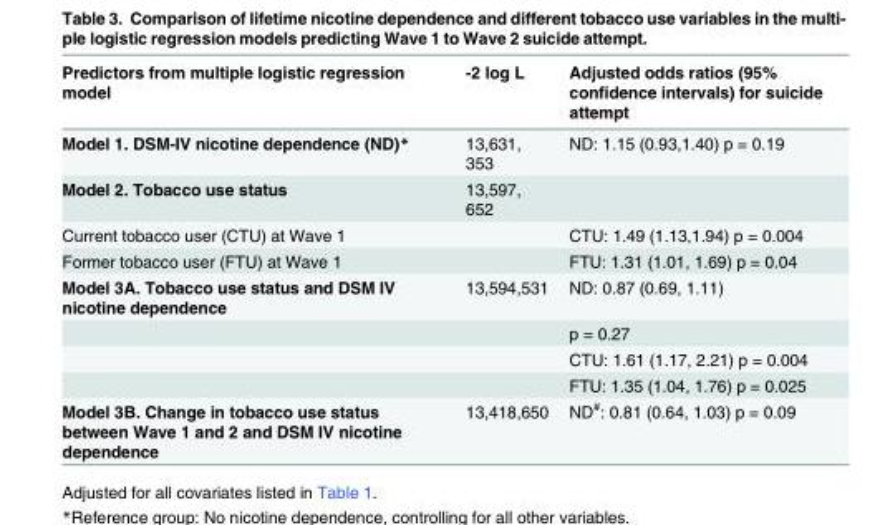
<table><thead><tr><td>Predictors from multiple logistic regression model</td><td>-2 log L</td><td>Adjusted odds ratios (95% confidence intervals) for suicide attempt</td></tr></thead><tbody><tr><td>Model 1. DSM-IV nicotine dependence (ND)*</td><td>13,631, 353</td><td>ND: 1.15 (0.93,1.40) p = 0.19</td></tr><tr><td>Model 2. Tobacco use status</td><td>13,597, 652</td><td></td></tr><tr><td>Current tobacco user (CTU) at Wave 1</td><td></td><td>CTU: 1.49 (1.13,1.94) p = 0.004</td></tr><tr><td>Former tobacco user (FTU) at Wave 1</td><td></td><td>FTU: 1.31 (1.01, 1.69) p = 0.04</td></tr><tr><td rowspan="4">Model 3A. Tobacco use status and DSM IV nicotine dependence</td><td>13,594,531</td><td>ND: 0.87 (0.69, 1.11)</td></tr><tr><td></td><td>p = 0.27</td></tr><tr><td></td><td>CTU: 1.61 (1.17, 2.21) p = 0.004</td></tr><tr><td></td><td>FTU: 1.35 (1.04, 1.76) p = 0.025</td></tr><tr><td>Model 3B. Change in tobacco use status between Wave 1 and 2 and DSM IV nicotine dependence</td><td>13,418,650</td><td>ND<sup>#</sup>: 0.81 (0.64, 1.03) p = 0.09</td></tr></tbody></table>